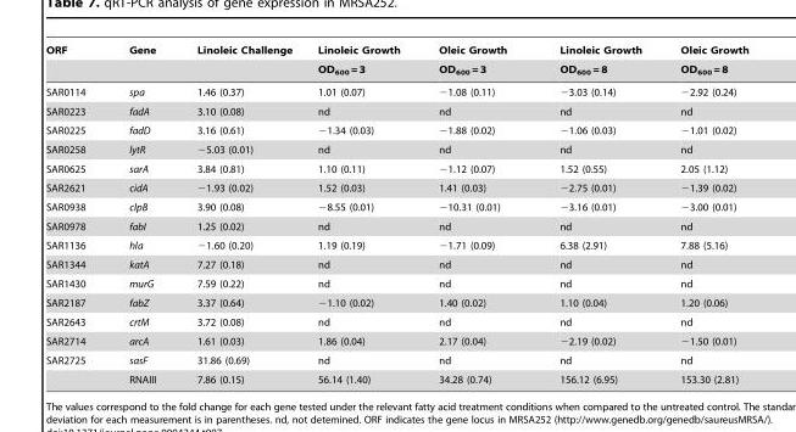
<table><thead><tr><td rowspan="2">ORF</td><td rowspan="2">Gene</td><td rowspan="2">Linoleic Challenge</td><td rowspan="2">Linoleic Growth OD<sub>600</sub> = 3</td><td rowspan="2">Oleic Growth OD<sub>600</sub> = 3</td><td rowspan="2">Linoleic Growth OD<sub>600</sub> = 8</td><td rowspan="2">Oleic Growth OD<sub>600</sub> = 8</td></tr><tr></tr></thead><tbody><tr><td>SAR0114</td><td>spa</td><td>1.46 (0.37)</td><td>1.01 (0.07)</td><td>−1.08 (0.11)</td><td>−3.03 (0.14)</td><td>−2.92 (0.24)</td></tr><tr><td>SAR0223</td><td>fadA</td><td>3.10 (0.08)</td><td>nd</td><td>nd</td><td>nd</td><td>nd</td></tr><tr><td>SAR0225</td><td>fadD</td><td>3.16 (0.61)</td><td>−1.34 (0.03)</td><td>−1.88 (0.02)</td><td>−1.06 (0.03)</td><td>−1.01 (0.02)</td></tr><tr><td>SAR0258</td><td>lytR</td><td>−5.03 (0.01)</td><td>nd</td><td>nd</td><td>nd</td><td>nd</td></tr><tr><td>SAR0625</td><td>sarA</td><td>3.84 (0.81)</td><td>1.10 (0.11)</td><td>−1.12 (0.07)</td><td>1.52 (0.55)</td><td>2.05 (1.12)</td></tr><tr><td>SAR2621</td><td>cidA</td><td>−1.93 (0.02)</td><td>1.52 (0.03)</td><td>1.41 (0.03)</td><td>−2.75 (0.01)</td><td>−1.39 (0.02)</td></tr><tr><td>SAR0938</td><td>clpB</td><td>3.90 (0.08)</td><td>−8.55 (0.01)</td><td>−10.31 (0.01)</td><td>−3.16 (0.01)</td><td>−3.00 (0.01)</td></tr><tr><td>SAR0978</td><td>fabI</td><td>1.25 (0.02)</td><td>nd</td><td>nd</td><td>nd</td><td>nd</td></tr><tr><td>SAR1136</td><td>hla</td><td>−1.60 (0.20)</td><td>1.19 (0.19)</td><td>−1.71 (0.09)</td><td>6.38 (2.91)</td><td>7.88 (5.16)</td></tr><tr><td>SAR1344</td><td>katA</td><td>7.27 (0.18)</td><td>nd</td><td>nd</td><td>nd</td><td>nd</td></tr><tr><td>SAR1430</td><td>murG</td><td>7.59 (0.22)</td><td>nd</td><td>nd</td><td>nd</td><td>nd</td></tr><tr><td>SAR2187</td><td>fabZ</td><td>3.37 (0.64)</td><td>−1.10 (0.02)</td><td>1.40 (0.02)</td><td>1.10 (0.04)</td><td>1.20 (0.06)</td></tr><tr><td>SAR2643</td><td>crtM</td><td>3.72 (0.08)</td><td>nd</td><td>nd</td><td>nd</td><td>nd</td></tr><tr><td>SAR2714</td><td>arcA</td><td>1.61 (0.03)</td><td>1.86 (0.04)</td><td>2.17 (0.04)</td><td>−2.19 (0.02)</td><td>−1.50 (0.01)</td></tr><tr><td rowspan="2">SAR2725</td><td>sasF</td><td>31.86 (0.69)</td><td>nd</td><td>nd</td><td>nd</td><td>nd</td></tr><tr><td>RNAIII</td><td>7.86 (0.15)</td><td>56.14 (1.40)</td><td>34.28 (0.74)</td><td>156.12 (6.95)</td><td>153.30 (2.81)</td></tr></tbody></table>